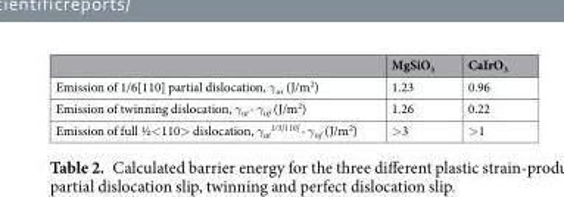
<table><thead><tr><td></td><td>MgSiO<sub>3</sub></td><td>CaIrO<sub>3</sub></td></tr></thead><tbody><tr><td>Emission of 1/6[110] partial dislocation, γ<sub>us</sub> (J/m<sup>2</sup>)</td><td>1.23</td><td>0.96</td></tr><tr><td>Emission of twinning dislocation, γ<sub>ut</sub> - γ<sub>isf</sub> (J/m<sup>2</sup>)</td><td>1.26</td><td>0.22</td></tr><tr><td>Emission of full ½&lt;110&gt; dislocation, γ<sub>ut</sub> <sup>1/3[110]</sup> - γ<sub>isf</sub> (J/m<sup>2</sup>)</td><td>&gt;3</td><td>&gt;1</td></tr></tbody></table>